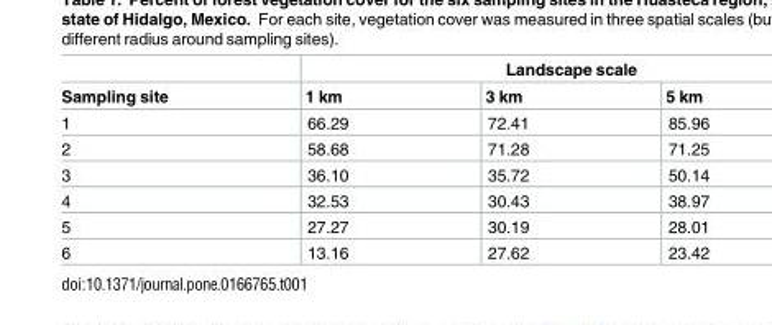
<table><thead><tr><td rowspan="2">Sampling site</td><td colspan="3">Landscape scale</td></tr><tr><td>1 km</td><td>3 km</td><td>5 km</td></tr></thead><tbody><tr><td>1</td><td>66.29</td><td>72.41</td><td>85.96</td></tr><tr><td>2</td><td>58.68</td><td>71.28</td><td>71.25</td></tr><tr><td>3</td><td>36.10</td><td>35.72</td><td>50.14</td></tr><tr><td>4</td><td>32.53</td><td>30.43</td><td>38.97</td></tr><tr><td>5</td><td>27.27</td><td>30.19</td><td>28.01</td></tr><tr><td>6</td><td>13.16</td><td>27.62</td><td>23.42</td></tr></tbody></table>